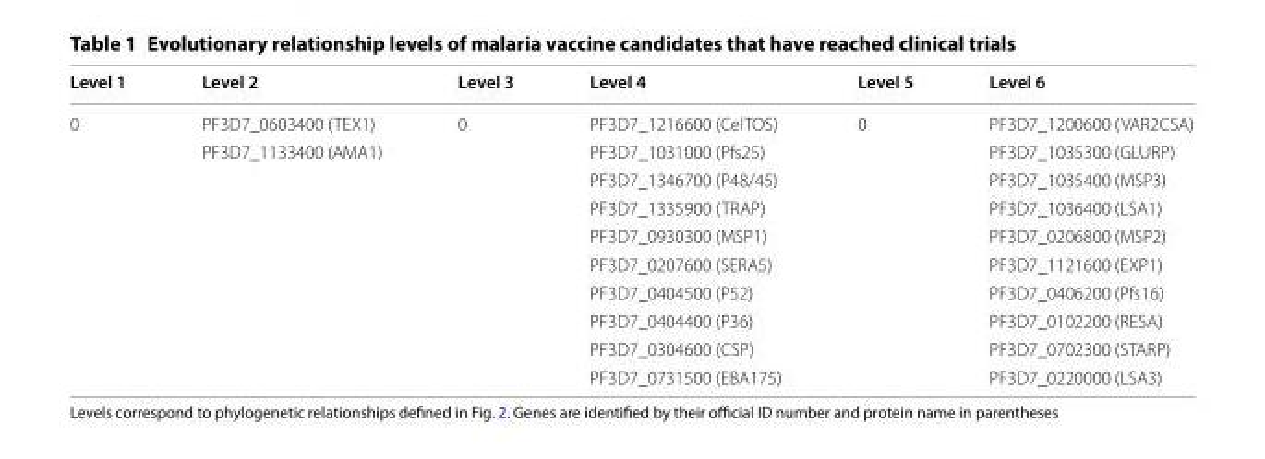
<table><thead><tr><td>Level 1</td><td>Level 2</td><td>Level 3</td><td>Level 4</td><td>Level 5</td><td>Level 6</td></tr></thead><tbody><tr><td rowspan="10">0</td><td>PF3D7_0603400 (TEX1)</td><td>0</td><td>PF3D7_1216600 (CelTOS)</td><td>0</td><td>PF3D7_1200600 (VAR2CSA)</td></tr><tr><td>PF3D7_1133400 (AMA1)</td><td></td><td>PF3D7_1031000 (Pfs25)</td><td></td><td>PF3D7_1035300 (GLURP)</td></tr><tr><td></td><td></td><td>PF3D7_1346700 (P48/45)</td><td></td><td>PF3D7_1035400 (MSP3)</td></tr><tr><td></td><td></td><td>PF3D7_1335900 (TRAP)</td><td></td><td>PF3D7_1036400 (LSA1)</td></tr><tr><td></td><td></td><td>PF3D7_0930300 (MSP1)</td><td></td><td>PF3D7_0206800 (MSP2)</td></tr><tr><td></td><td></td><td>PF3D7_0207600 (SERA5)</td><td></td><td>PF3D7_1121600 (EXP1)</td></tr><tr><td></td><td></td><td>PF3D7_0404500 (P52)</td><td></td><td>PF3D7_0406200 (Pfs16)</td></tr><tr><td></td><td></td><td>PF3D7_0404400 (P36)</td><td></td><td>PF3D7_0102200 (RESA)</td></tr><tr><td></td><td></td><td>PF3D7_0304600 (CSP)</td><td></td><td>PF3D7_0702300 (STARP)</td></tr><tr><td></td><td></td><td>PF3D7_0731500 (EBA175)</td><td></td><td>PF3D7_0220000 (LSA3)</td></tr></tbody></table>